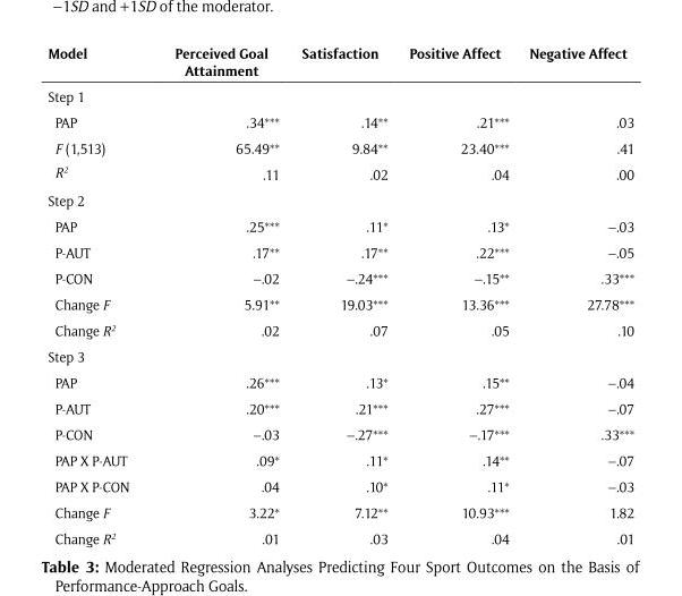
<table><thead><tr><td>Model</td><td>Perceived Goal Attainment</td><td>Satisfaction</td><td>Positive Affect</td><td>Negative Affect</td></tr></thead><tbody><tr><td colspan="5">Step 1</td></tr><tr><td>PAP</td><td>.34***</td><td>.14**</td><td>.21***</td><td>.03</td></tr><tr><td>F (1,513)</td><td>65.49**</td><td>9.84**</td><td>23.40***</td><td>.41</td></tr><tr><td>R<sup>2</sup></td><td>.11</td><td>.02</td><td>.04</td><td>.00</td></tr><tr><td colspan="5">Step 2</td></tr><tr><td>PAP</td><td>.25***</td><td>.11*</td><td>.13*</td><td>–.03</td></tr><tr><td>P-AUT</td><td>.17**</td><td>.17**</td><td>.22***</td><td>–.05</td></tr><tr><td>P-CON</td><td>–.02</td><td>–.24***</td><td>–.15**</td><td>.33***</td></tr><tr><td>Change F</td><td>5.91**</td><td>19.03***</td><td>13.36***</td><td>27.78***</td></tr><tr><td>Change R<sup>2</sup></td><td>.02</td><td>.07</td><td>.05</td><td>.10</td></tr><tr><td colspan="5">Step 3</td></tr><tr><td>PAP</td><td>.26***</td><td>.13*</td><td>.15**</td><td>–.04</td></tr><tr><td>P-AUT</td><td>.20***</td><td>.21***</td><td>.27***</td><td>–.07</td></tr><tr><td>P-CON</td><td>–.03</td><td>–.27***</td><td>–.17***</td><td>.33***</td></tr><tr><td>PAP X P-AUT</td><td>.09*</td><td>.11*</td><td>.14**</td><td>–.07</td></tr><tr><td>PAP X P-CON</td><td>.04</td><td>.10*</td><td>.11*</td><td>–.03</td></tr><tr><td>Change F</td><td>3.22*</td><td>7.12**</td><td>10.93***</td><td>1.82</td></tr><tr><td>Change R<sup>2</sup></td><td>.01</td><td>.03</td><td>.04</td><td>.01</td></tr></tbody></table>